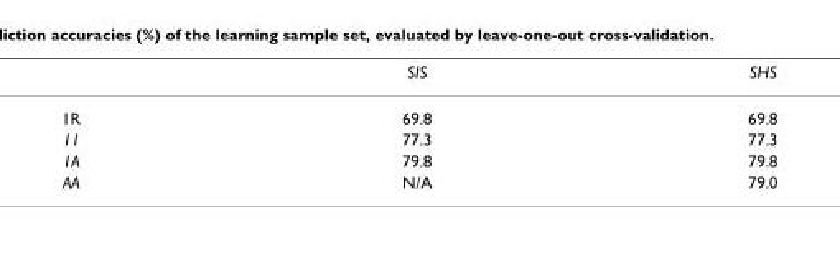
<table><thead><tr><td></td><td>SIS</td><td>SHS</td></tr></thead><tbody><tr><td>1R</td><td>69.8</td><td>69.8</td></tr><tr><td>11</td><td>77.3</td><td>77.3</td></tr><tr><td>1A</td><td>79.8</td><td>79.8</td></tr><tr><td>AA</td><td>N/A</td><td>79.0</td></tr></tbody></table>